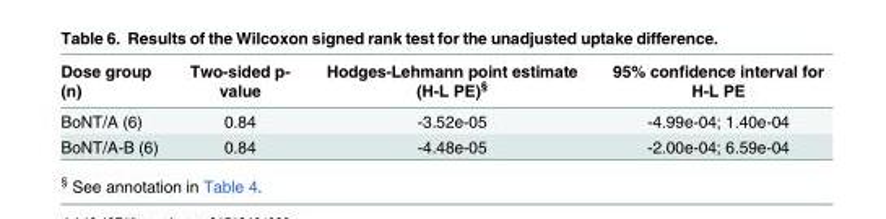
<table><thead><tr><td>Dose group (n)</td><td>Two-sided p- value</td><td>Hodges-Lehmann point estimate (H-L PE)<sup>§</sup></td><td>95% confidence interval for H-L PE</td></tr></thead><tbody><tr><td>BoNT/A (6)</td><td>0.84</td><td>-3.52e-05</td><td>-4.99e-04; 1.40e-04</td></tr><tr><td>BoNT/A-B (6)</td><td>0.84</td><td>-4.48e-05</td><td>-2.00e-04; 6.59e-04</td></tr></tbody></table>